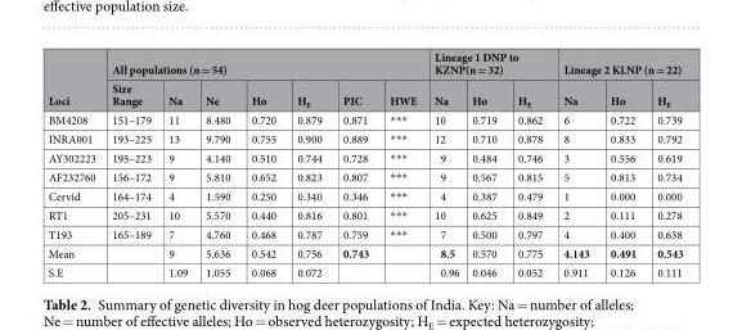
<table><thead><tr><td rowspan="2">Loci</td><td colspan="7">All populations (n = 54)</td><td colspan="3">Lineage 1 DNP to KZNP(n = 32)</td><td colspan="3">Lineage 2 KLNP (n = 22)</td></tr><tr><td>Size Range</td><td>Na</td><td>Ne</td><td>Ho</td><td>H<sub>E</sub></td><td>PIC</td><td>HWE</td><td>Na</td><td>Ho</td><td>H<sub>E</sub></td><td>Na</td><td>Ho</td><td>H<sub>E</sub></td></tr></thead><tbody><tr><td>BM4208</td><td>151–179</td><td>11</td><td>8.480</td><td>0.720</td><td>0.879</td><td>0.871</td><td>***</td><td>10</td><td>0.719</td><td>0.862</td><td>6</td><td>0.722</td><td>0.739</td></tr><tr><td>INRA001</td><td>193–225</td><td>13</td><td>9.790</td><td>0.755</td><td>0.900</td><td>0.889</td><td>***</td><td>12</td><td>0.710</td><td>0.878</td><td>8</td><td>0.833</td><td>0.792</td></tr><tr><td>AY302223</td><td>195–223</td><td>9</td><td>4.140</td><td>0.510</td><td>0.744</td><td>0.728</td><td>***</td><td>9</td><td>0.484</td><td>0.746</td><td>3</td><td>0.556</td><td>0.619</td></tr><tr><td>AF232760</td><td>156–172</td><td>9</td><td>5.810</td><td>0.652</td><td>0.823</td><td>0.807</td><td>***</td><td>9</td><td>0.567</td><td>0.815</td><td>5</td><td>0.813</td><td>0.734</td></tr><tr><td>Cervid</td><td>164–174</td><td>4</td><td>1.590</td><td>0.250</td><td>0.340</td><td>0.346</td><td>***</td><td>4</td><td>0.387</td><td>0.479</td><td>1</td><td>0.000</td><td>0.000</td></tr><tr><td>RT1</td><td>205–231</td><td>10</td><td>5.570</td><td>0.440</td><td>0.816</td><td>0.801</td><td>***</td><td>10</td><td>0.625</td><td>0.849</td><td>2</td><td>0.111</td><td>0.278</td></tr><tr><td>T193</td><td>165–189</td><td>7</td><td>4.760</td><td>0.468</td><td>0.787</td><td>0.759</td><td>***</td><td>7</td><td>0.500</td><td>0.797</td><td>4</td><td>0.400</td><td>0.638</td></tr><tr><td>Mean</td><td></td><td>9</td><td>5.636</td><td>0.542</td><td>0.756</td><td>0.743</td><td></td><td>8.5</td><td>0.570</td><td>0.775</td><td>4.143</td><td>0.491</td><td>0.543</td></tr><tr><td>S.E</td><td></td><td>1.09</td><td>1.055</td><td>0.068</td><td>0.072</td><td></td><td></td><td>0.96</td><td>0.046</td><td>0.052</td><td>0.911</td><td>0.126</td><td>0.111</td></tr></tbody></table>